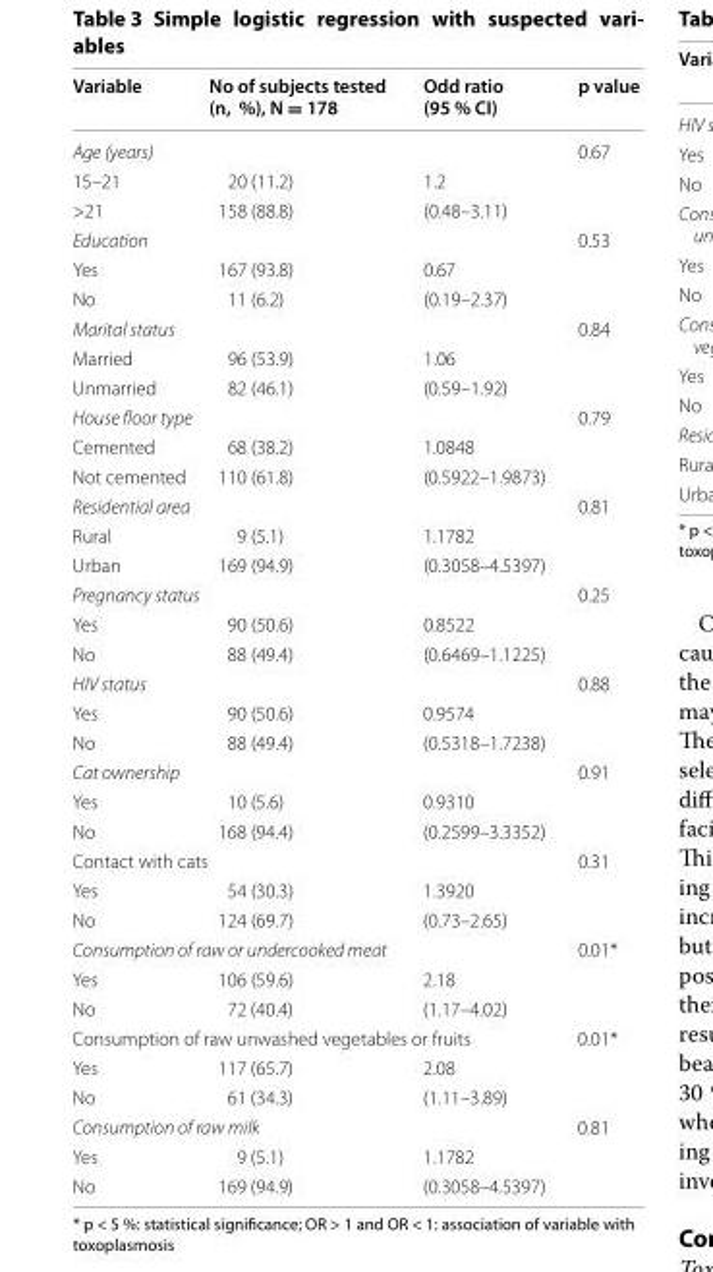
<table><thead><tr><td>Variable</td><td>No of subjects tested (n, %), N = 178</td><td>Odd ratio (95 % CI)</td><td>p value</td></tr></thead><tbody><tr><td colspan="3">Age (years)</td><td rowspan="3">0.67</td></tr><tr><td>15–21</td><td>20 (11.2)</td><td>1.2</td></tr><tr><td>&gt;21</td><td>158 (88.8)</td><td>(0.48–3.11)</td></tr><tr><td colspan="3">Education</td><td rowspan="3">0.53</td></tr><tr><td>Yes</td><td>167 (93.8)</td><td>0.67</td></tr><tr><td>No</td><td>11 (6.2)</td><td>(0.19–2.37)</td></tr><tr><td colspan="3">Marital status</td><td rowspan="3">0.84</td></tr><tr><td>Married</td><td>96 (53.9)</td><td>1.06</td></tr><tr><td>Unmarried</td><td>82 (46.1)</td><td>(0.59–1.92)</td></tr><tr><td colspan="3">House floor type</td><td rowspan="3">0.79</td></tr><tr><td>Cemented</td><td>68 (38.2)</td><td>1.0848</td></tr><tr><td>Not cemented</td><td>110 (61.8)</td><td>(0.5922–1.9873)</td></tr><tr><td colspan="3">Residential area</td><td rowspan="3">0.81</td></tr><tr><td>Rural</td><td>9 (5.1)</td><td>1.1782</td></tr><tr><td>Urban</td><td>169 (94.9)</td><td>(0.3058–4.5397)</td></tr><tr><td colspan="3">Pregnancy status</td><td rowspan="3">0.25</td></tr><tr><td>Yes</td><td>90 (50.6)</td><td>0.8522</td></tr><tr><td>No</td><td>88 (49.4)</td><td>(0.6469–1.1225)</td></tr><tr><td colspan="3">HIV status</td><td rowspan="3">0.88</td></tr><tr><td>Yes</td><td>90 (50.6)</td><td>0.9574</td></tr><tr><td>No</td><td>88 (49.4)</td><td>(0.5318–1.7238)</td></tr><tr><td colspan="3">Cat ownership</td><td>0.91</td></tr><tr><td>Yes</td><td>10 (5.6)</td><td>0.9310</td><td rowspan="2"></td></tr><tr><td>No</td><td>168 (94.4)</td><td>(0.2599–3.3352)</td></tr><tr><td colspan="3">Contact with cats</td><td rowspan="3">0.31</td></tr><tr><td>Yes</td><td>54 (30.3)</td><td>1.3920</td></tr><tr><td>No</td><td>124 (69.7)</td><td>(0.73–2.65)</td></tr><tr><td colspan="3">Consumption of raw or undercooked meat</td><td rowspan="3">0.01*</td></tr><tr><td>Yes</td><td>106 (59.6)</td><td>2.18</td></tr><tr><td>No</td><td>72 (40.4)</td><td>(1.17–4.02)</td></tr><tr><td colspan="3">Consumption of raw unwashed vegetables or fruits</td><td rowspan="3">0.01*</td></tr><tr><td>Yes</td><td>117 (65.7)</td><td>2.08</td></tr><tr><td>No</td><td>61 (34.3)</td><td>(1.11–3.89)</td></tr><tr><td colspan="3">Consumption of raw milk</td><td rowspan="3">0.81</td></tr><tr><td>Yes</td><td>9 (5.1)</td><td>1.1782</td></tr><tr><td>No</td><td>169 (94.9)</td><td>(0.3058–4.5397)</td></tr></tbody></table>